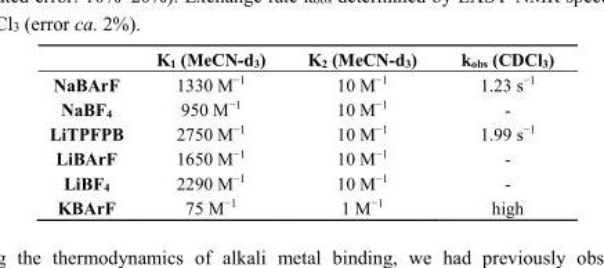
<table><thead><tr><td></td><td>K<sub>1</sub> (MeCN-d<sub>3</sub>)</td><td>K<sub>2</sub> (MeCN-d<sub>3</sub>)</td><td>k<sub>obs</sub> (CDCl<sub>3</sub>)</td></tr></thead><tbody><tr><td>NaBArF</td><td>1330 M<sup>−1</sup></td><td>10 M<sup>−1</sup></td><td>1.23 s<sup>−1</sup></td></tr><tr><td>NaBF<sub>4</sub></td><td>950 M<sup>−1</sup></td><td>10 M<sup>−1</sup></td><td>-</td></tr><tr><td>LiTPFPB</td><td>2750 M<sup>−1</sup></td><td>10 M<sup>−1</sup></td><td>1.99 s<sup>−1</sup></td></tr><tr><td>LiBArF</td><td>1650 M<sup>−1</sup></td><td>10 M<sup>−1</sup></td><td>-</td></tr><tr><td>LiBF<sub>4</sub></td><td>2290 M<sup>−1</sup></td><td>10 M<sup>−1</sup></td><td>-</td></tr><tr><td>KBArF</td><td>75 M<sup>−1</sup></td><td>1 M<sup>−1</sup></td><td>high</td></tr></tbody></table>